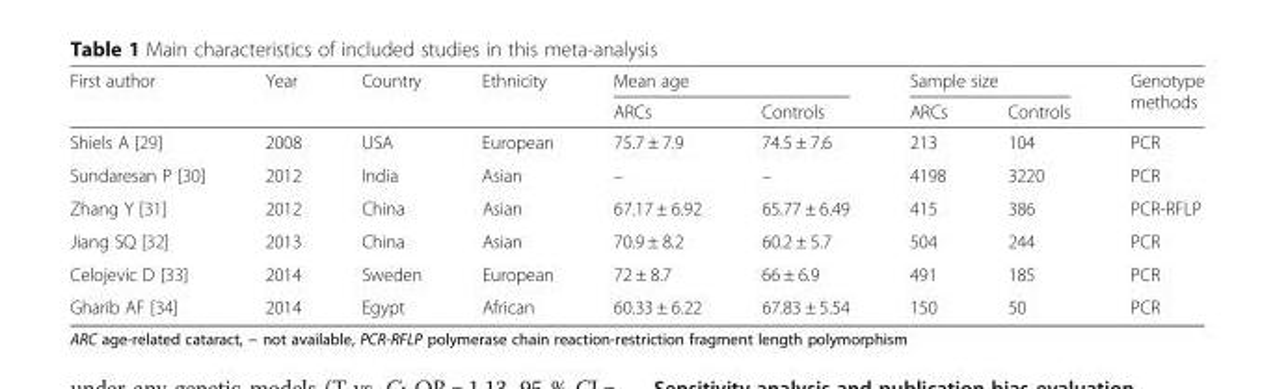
<table><thead><tr><td rowspan="2">First author</td><td rowspan="2">Year</td><td rowspan="2">Country</td><td rowspan="2">Ethnicity</td><td colspan="2">Mean age</td><td colspan="2">Sample size</td><td rowspan="2">Genotype methods</td></tr><tr><td>ARCs</td><td>Controls</td><td>ARCs</td><td>Controls</td></tr></thead><tbody><tr><td>Shiels A [29]</td><td>2008</td><td>USA</td><td>European</td><td>75.7 ± 7.9</td><td>74.5 ± 7.6</td><td>213</td><td>104</td><td>PCR</td></tr><tr><td>Sundaresan P [30]</td><td>2012</td><td>India</td><td>Asian</td><td>–</td><td>–</td><td>4198</td><td>3220</td><td>PCR</td></tr><tr><td>Zhang Y [31]</td><td>2012</td><td>China</td><td>Asian</td><td>67.17 ± 6.92</td><td>65.77 ± 6.49</td><td>415</td><td>386</td><td>PCR-RFLP</td></tr><tr><td>Jiang SQ [32]</td><td>2013</td><td>China</td><td>Asian</td><td>70.9 ± 8.2</td><td>60.2 ± 5.7</td><td>504</td><td>244</td><td>PCR</td></tr><tr><td>Celojevic D [33]</td><td>2014</td><td>Sweden</td><td>European</td><td>72 ± 8.7</td><td>66 ± 6.9</td><td>491</td><td>185</td><td>PCR</td></tr><tr><td>Gharib AF [34]</td><td>2014</td><td>Egypt</td><td>African</td><td>60.33 ± 6.22</td><td>67.83 ± 5.54</td><td>150</td><td>50</td><td>PCR</td></tr></tbody></table>